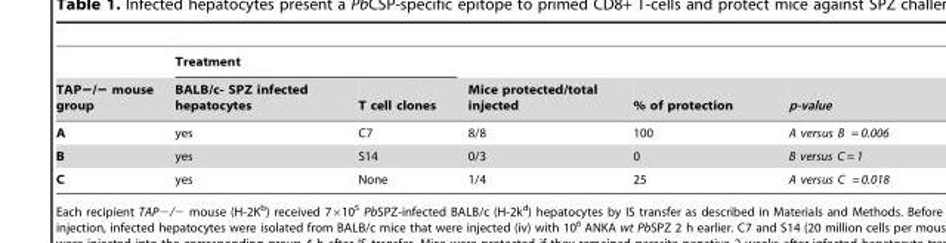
<table><thead><tr><td rowspan="2">TAP−/− mouse group</td><td colspan="2">Treatment</td><td rowspan="2">Mice protected/total injected</td><td rowspan="2">% of protection</td><td rowspan="2">p-value</td></tr><tr><td>BALB/c- SPZ infected hepatocytes</td><td>T cell clones</td></tr></thead><tbody><tr><td>A</td><td>yes</td><td>C7</td><td>8/8</td><td>100</td><td>A versus B = 0.006</td></tr><tr><td>B</td><td>yes</td><td>S14</td><td>0/3</td><td>0</td><td>B versus C = 1</td></tr><tr><td>C</td><td>yes</td><td>None</td><td>1/4</td><td>25</td><td>A versus C = 0.018</td></tr></tbody></table>